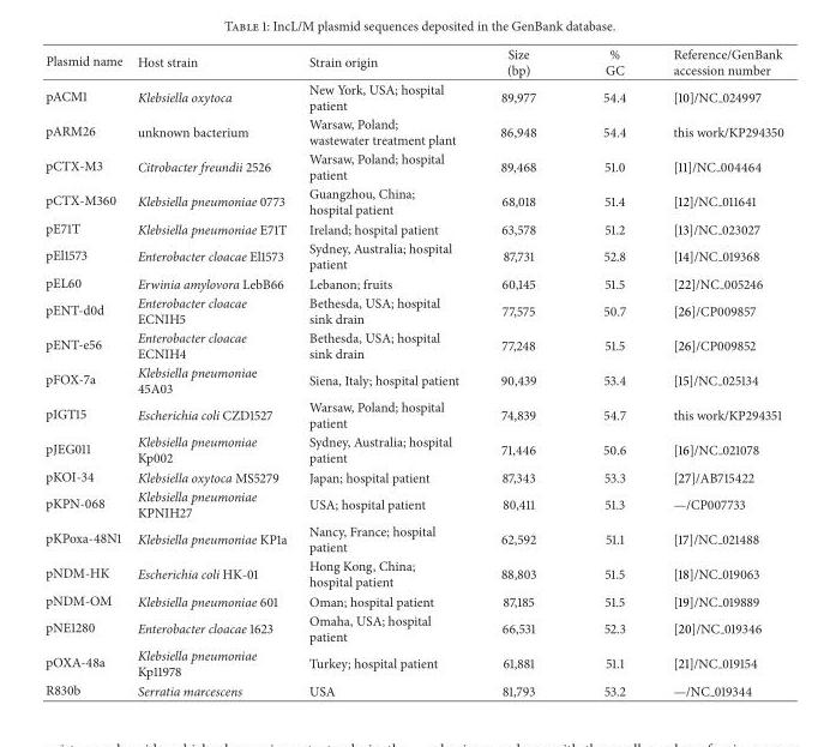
<table><thead><tr><td>Plasmid name</td><td>Host strain</td><td>Strain origin</td><td>Size (bp)</td><td>% GC</td><td>Reference/GenBank accession number</td></tr></thead><tbody><tr><td>pACM1</td><td>Klebsiella oxytoca</td><td>New York, USA; hospital patient</td><td>89,977</td><td>54.4</td><td>[10]/NC 024997</td></tr><tr><td>pARM26</td><td>unknown bacterium</td><td>Warsaw, Poland; wastewater treatment plant</td><td>86,948</td><td>54.4</td><td>this work/KP294350</td></tr><tr><td>pCTX-M3</td><td>Citrobacter freundii 2526</td><td>Warsaw, Poland; hospital patient</td><td>89,468</td><td>51.0</td><td>[11]/NC 004464</td></tr><tr><td>pCTX-M360</td><td>Klebsiella pneumoniae 0773</td><td>Guangzhou, China; hospital patient</td><td>68,018</td><td>51.4</td><td>[12]/NC 011641</td></tr><tr><td>pE71T</td><td>Klebsiella pneumoniae E71T</td><td>Ireland; hospital patient</td><td>63,578</td><td>51.2</td><td>[13]/NC 023027</td></tr><tr><td>pEl1573</td><td>Enterobacter cloacae El1573</td><td>Sydney, Australia; hospital patient</td><td>87,731</td><td>52.8</td><td>[14]/NC 019368</td></tr><tr><td>pEL60</td><td>Erwinia amylovora LebB66</td><td>Lebanon; fruits</td><td>60,145</td><td>51.5</td><td>[22]/NC 005246</td></tr><tr><td>pENT-d0d</td><td>Enterobacter cloacae ECNIH5</td><td>Bethesda, USA; hospital sink drain</td><td>77,575</td><td>50.7</td><td>[26]/CP009857</td></tr><tr><td>pENT-e56</td><td>Enterobacter cloacae ECNIH4</td><td>Bethesda, USA; hospital sink drain</td><td>77,248</td><td>51.5</td><td>[26]/CP009852</td></tr><tr><td>pFOX-7a</td><td>Klebsiella pneumoniae 45A03</td><td>Siena, Italy; hospital patient</td><td>90,439</td><td>53.4</td><td>[15]/NC 025134</td></tr><tr><td>pIGT15</td><td>Escherichia coli CZD1527</td><td>Warsaw, Poland; hospital patient</td><td>74,839</td><td>54.7</td><td>this work/KP294351</td></tr><tr><td>pJEG011</td><td>Klebsiella pneumoniae Kp002</td><td>Sydney, Australia; hospital patient</td><td>71,446</td><td>50.6</td><td>[16]/NC 021078</td></tr><tr><td>pKOI-34</td><td>Klebsiella oxytoca MS5279</td><td>Japan; hospital patient</td><td>87,343</td><td>53.3</td><td>[27]/AB715422</td></tr><tr><td>pKPN-068</td><td>Klebsiella pneumoniae KPNIH27</td><td>USA; hospital patient</td><td>80,411</td><td>51.3</td><td>—/CP007733</td></tr><tr><td>pKPoxa-48N1</td><td>Klebsiella pneumoniae KP1a</td><td>Nancy, France; hospital patient</td><td>62,592</td><td>51.1</td><td>[17]/NC 021488</td></tr><tr><td>pNDM-HK</td><td>Escherichia coli HK-01</td><td>Hong Kong, China; hospital patient</td><td>88,803</td><td>51.5</td><td>[18]/NC 019063</td></tr><tr><td>pNDM-OM</td><td>Klebsiella pneumoniae 601</td><td>Oman; hospital patient</td><td>87,185</td><td>51.5</td><td>[19]/NC 019889</td></tr><tr><td>pNE1280</td><td>Enterobacter cloacae 1623</td><td>Omaha, USA; hospital patient</td><td>66,531</td><td>52.3</td><td>[20]/NC 019346</td></tr><tr><td>pOXA-48a</td><td>Klebsiella pneumoniae Kp11978</td><td>Turkey; hospital patient</td><td>61,881</td><td>51.1</td><td>[21]/NC 019154</td></tr><tr><td>R830b</td><td>Serratia marcescens</td><td>USA</td><td>81,793</td><td>53.2</td><td>—/NC 019344</td></tr></tbody></table>